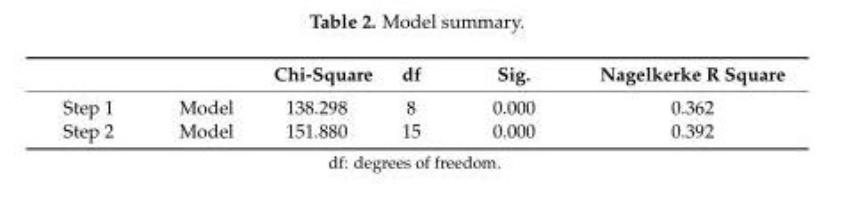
<table><thead><tr><td></td><td></td><td>Chi-Square</td><td>df</td><td>Sig.</td><td>Nagelkerke R Square</td></tr></thead><tbody><tr><td>Step 1</td><td>Model</td><td>138.298</td><td>8</td><td>0.000</td><td>0.362</td></tr><tr><td>Step 2</td><td>Model</td><td>151.880</td><td>15</td><td>0.000</td><td>0.392</td></tr></tbody></table>